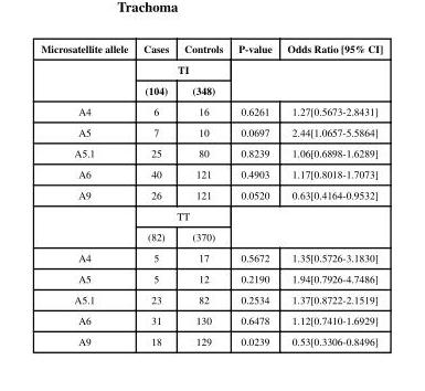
<table><thead><tr><td rowspan="3">Microsatellite allele</td><td>Cases</td><td>Controls</td><td rowspan="3">P-value</td><td rowspan="3">Odds Ratio [95% CI]</td></tr><tr><td colspan="2">TI</td></tr><tr><td>(104)</td><td>(348)</td></tr></thead><tbody><tr><td>A4</td><td>6</td><td>16</td><td>0.6261</td><td>1.27[0.5673-2.8431]</td></tr><tr><td>A5</td><td>7</td><td>10</td><td>0.0697</td><td>2.44[1.0657-5.5864]</td></tr><tr><td>A5.1</td><td>25</td><td>80</td><td>0.8239</td><td>1.06[0.6898-1.6289]</td></tr><tr><td>A6</td><td>40</td><td>121</td><td>0.4903</td><td>1.17[0.8018-1.7073]</td></tr><tr><td rowspan="3">A9</td><td>26</td><td>121</td><td>0.0520</td><td>0.63[0.4164-0.9532]</td></tr><tr><td colspan="2">TT</td><td rowspan="2" colspan="2"></td></tr><tr><td>(82)</td><td>(370)</td></tr><tr><td>A4</td><td>5</td><td>17</td><td>0.5672</td><td>1.35[0.5726-3.1830]</td></tr><tr><td>A5</td><td>5</td><td>12</td><td>0.2190</td><td>1.94[0.7926-4.7486]</td></tr><tr><td>A5.1</td><td>23</td><td>82</td><td>0.2534</td><td>1.37[0.8722-2.1519]</td></tr><tr><td>A6</td><td>31</td><td>130</td><td>0.6478</td><td>1.12[0.7410-1.6929]</td></tr><tr><td>A9</td><td>18</td><td>129</td><td>0.0239</td><td>0.53[0.3306-0.8496]</td></tr></tbody></table>